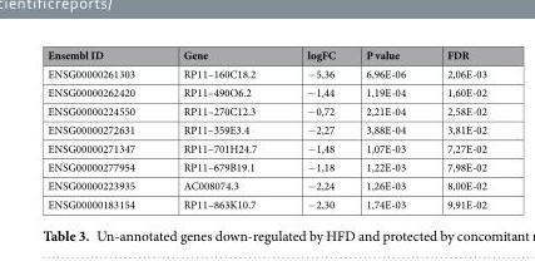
<table><thead><tr><td>Ensembl ID</td><td>Gene</td><td>logFC</td><td>P value</td><td>FDR</td></tr></thead><tbody><tr><td>ENSG00000261303</td><td>RP11–160C18.2</td><td>−5,36</td><td>6,96E-06</td><td>2,06E-03</td></tr><tr><td>ENSG00000262420</td><td>RP11–490O6.2</td><td>−1,44</td><td>1,19E-04</td><td>1,60E-02</td></tr><tr><td>ENSG00000224550</td><td>RP11–270C12.3</td><td>−0,72</td><td>2,21E-04</td><td>2,58E-02</td></tr><tr><td>ENSG00000272631</td><td>RP11–359E3.4</td><td>−2,27</td><td>3,88E-04</td><td>3,81E-02</td></tr><tr><td>ENSG00000271347</td><td>RP11–701H24.7</td><td>−1,48</td><td>1,07E-03</td><td>7,27E-02</td></tr><tr><td>ENSG00000277954</td><td>RP11–679B19.1</td><td>−1,18</td><td>1,22E-03</td><td>7,98E-02</td></tr><tr><td>ENSG00000223935</td><td>AC008074.3</td><td>−2,24</td><td>1,26E-03</td><td>8,00E-02</td></tr><tr><td>ENSG00000183154</td><td>RP11–863K10.7</td><td>−2,30</td><td>1,74E-03</td><td>9,91E-02</td></tr></tbody></table>